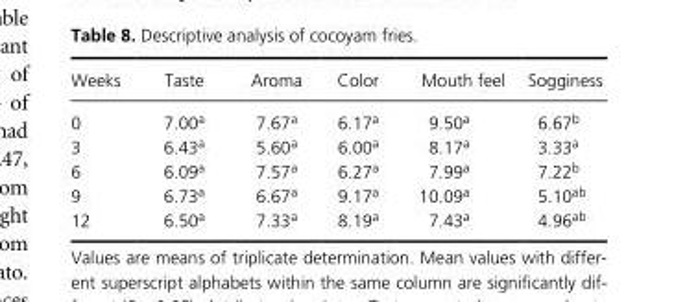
<table><thead><tr><td>Weeks</td><td>Taste</td><td>Aroma</td><td>Color</td><td>Mouth feel</td><td>Sogginess</td></tr></thead><tbody><tr><td>0</td><td>7.00<sup>a</sup></td><td>7.67<sup>a</sup></td><td>6.17<sup>a</sup></td><td>9.50<sup>a</sup></td><td>6.67<sup>b</sup></td></tr><tr><td>3</td><td>6.43<sup>a</sup></td><td>5.60<sup>a</sup></td><td>6.00<sup>a</sup></td><td>8.17<sup>a</sup></td><td>3.33<sup>a</sup></td></tr><tr><td>6</td><td>6.09<sup>a</sup></td><td>7.57<sup>a</sup></td><td>6.27<sup>a</sup></td><td>7.99<sup>a</sup></td><td>7.22<sup>b</sup></td></tr><tr><td>9</td><td>6.73<sup>a</sup></td><td>6.67<sup>a</sup></td><td>9.17<sup>a</sup></td><td>10.09<sup>a</sup></td><td>5.10<sup>ab</sup></td></tr><tr><td>12</td><td>6.50<sup>a</sup></td><td>7.33<sup>a</sup></td><td>8.19<sup>a</sup></td><td>7.43<sup>a</sup></td><td>4.96<sup>ab</sup></td></tr></tbody></table>